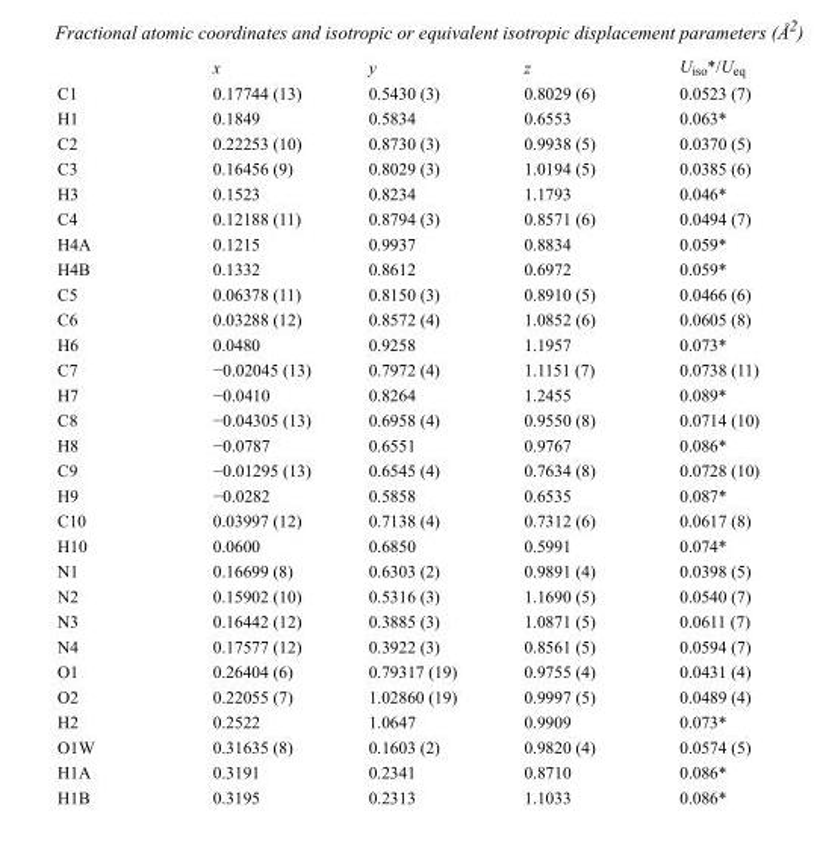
<table><thead><tr><td></td><td>x</td><td>y</td><td>z</td><td>U<sub>iso</sub>*/U<sub>eq</sub></td></tr></thead><tbody><tr><td>C1</td><td>0.17744 (13)</td><td>0.5430 (3)</td><td>0.8029 (6)</td><td>0.0523 (7)</td></tr><tr><td>H1</td><td>0.1849</td><td>0.5834</td><td>0.6553</td><td>0.063*</td></tr><tr><td>C2</td><td>0.22253 (10)</td><td>0.8730 (3)</td><td>0.9938 (5)</td><td>0.0370 (5)</td></tr><tr><td>C3</td><td>0.16456 (9)</td><td>0.8029 (3)</td><td>1.0194 (5)</td><td>0.0385 (6)</td></tr><tr><td>H3</td><td>0.1523</td><td>0.8234</td><td>1.1793</td><td>0.046*</td></tr><tr><td>C4</td><td>0.12188 (11)</td><td>0.8794 (3)</td><td>0.8571 (6)</td><td>0.0494 (7)</td></tr><tr><td>H4A</td><td>0.1215</td><td>0.9937</td><td>0.8834</td><td>0.059*</td></tr><tr><td>H4B</td><td>0.1332</td><td>0.8612</td><td>0.6972</td><td>0.059*</td></tr><tr><td>C5</td><td>0.06378 (11)</td><td>0.8150 (3)</td><td>0.8910 (5)</td><td>0.0466 (6)</td></tr><tr><td>C6</td><td>0.03288 (12)</td><td>0.8572 (4)</td><td>1.0852 (6)</td><td>0.0605 (8)</td></tr><tr><td>H6</td><td>0.0480</td><td>0.9258</td><td>1.1957</td><td>0.073*</td></tr><tr><td>C7</td><td>−0.02045 (13)</td><td>0.7972 (4)</td><td>1.1151 (7)</td><td>0.0738 (11)</td></tr><tr><td>H7</td><td>−0.0410</td><td>0.8264</td><td>1.2455</td><td>0.089*</td></tr><tr><td>C8</td><td>−0.04305 (13)</td><td>0.6958 (4)</td><td>0.9550 (8)</td><td>0.0714 (10)</td></tr><tr><td>H8</td><td>−0.0787</td><td>0.6551</td><td>0.9767</td><td>0.086*</td></tr><tr><td>C9</td><td>−0.01295 (13)</td><td>0.6545 (4)</td><td>0.7634 (8)</td><td>0.0728 (10)</td></tr><tr><td>H9</td><td>−0.0282</td><td>0.5858</td><td>0.6535</td><td>0.087*</td></tr><tr><td>C10</td><td>0.03997 (12)</td><td>0.7138 (4)</td><td>0.7312 (6)</td><td>0.0617 (8)</td></tr><tr><td>H10</td><td>0.0600</td><td>0.6850</td><td>0.5991</td><td>0.074*</td></tr><tr><td>N1</td><td>0.16699 (8)</td><td>0.6303 (2)</td><td>0.9891 (4)</td><td>0.0398 (5)</td></tr><tr><td>N2</td><td>0.15902 (10)</td><td>0.5316 (3)</td><td>1.1690 (5)</td><td>0.0540 (7)</td></tr><tr><td>N3</td><td>0.16442 (12)</td><td>0.3885 (3)</td><td>1.0871 (5)</td><td>0.0611 (7)</td></tr><tr><td>N4</td><td>0.17577 (12)</td><td>0.3922 (3)</td><td>0.8561 (5)</td><td>0.0594 (7)</td></tr><tr><td>O1</td><td>0.26404 (6)</td><td>0.79317 (19)</td><td>0.9755 (4)</td><td>0.0431 (4)</td></tr><tr><td>O2</td><td>0.22055 (7)</td><td>1.02860 (19)</td><td>0.9997 (5)</td><td>0.0489 (4)</td></tr><tr><td>H2</td><td>0.2522</td><td>1.0647</td><td>0.9909</td><td>0.073*</td></tr><tr><td>O1W</td><td>0.31635 (8)</td><td>0.1603 (2)</td><td>0.9820 (4)</td><td>0.0574 (5)</td></tr><tr><td>H1A</td><td>0.3191</td><td>0.2341</td><td>0.8710</td><td>0.086*</td></tr><tr><td>H1B</td><td>0.3195</td><td>0.2313</td><td>1.1033</td><td>0.086*</td></tr></tbody></table>